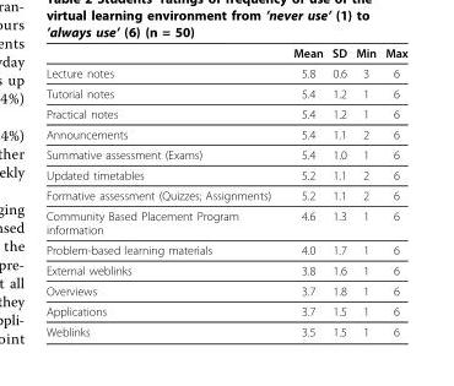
<table><thead><tr><td></td><td>Mean</td><td>SD</td><td>Min</td><td>Max</td></tr></thead><tbody><tr><td>Lecture notes</td><td>5.8</td><td>0.6</td><td>3</td><td>6</td></tr><tr><td>Tutorial notes</td><td>5.4</td><td>1.2</td><td>1</td><td>6</td></tr><tr><td>Practical notes</td><td>5.4</td><td>1.2</td><td>1</td><td>6</td></tr><tr><td>Announcements</td><td>5.4</td><td>1.1</td><td>2</td><td>6</td></tr><tr><td>Summative assessment (Exams)</td><td>5.4</td><td>1.0</td><td>1</td><td>6</td></tr><tr><td>Updated timetables</td><td>5.2</td><td>1.1</td><td>2</td><td>6</td></tr><tr><td>Formative assessment (Quizzes; Assignments)</td><td>5.2</td><td>1.1</td><td>2</td><td>6</td></tr><tr><td>Community Based Placement Program information</td><td>4.6</td><td>1.3</td><td>1</td><td>6</td></tr><tr><td>Problem-based learning materials</td><td>4.0</td><td>1.7</td><td>1</td><td>6</td></tr><tr><td>External weblinks</td><td>3.8</td><td>1.6</td><td>1</td><td>6</td></tr><tr><td>Overviews</td><td>3.7</td><td>1.8</td><td>1</td><td>6</td></tr><tr><td>Applications</td><td>3.7</td><td>1.5</td><td>1</td><td>6</td></tr><tr><td>Weblinks</td><td>3.5</td><td>1.5</td><td>1</td><td>6</td></tr></tbody></table>